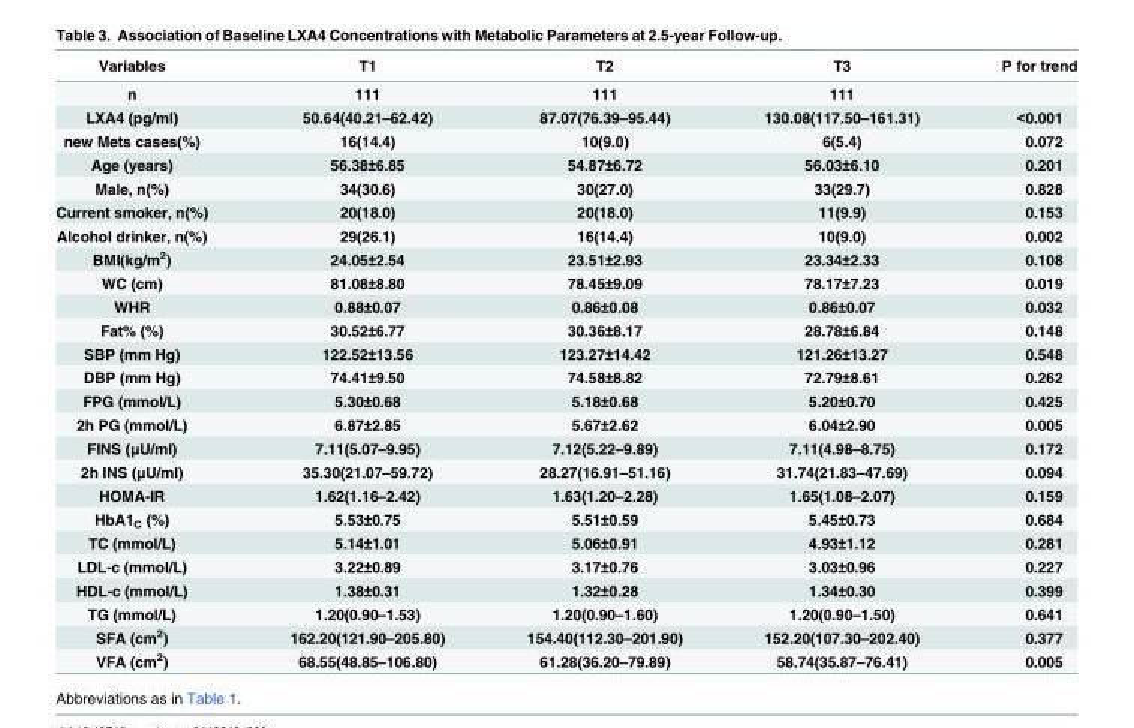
<table><thead><tr><td>Variables</td><td>T1</td><td>T2</td><td>T3</td><td>P for trend</td></tr></thead><tbody><tr><td>n</td><td>111</td><td>111</td><td>111</td><td></td></tr><tr><td>LXA4 (pg/ml)</td><td>50.64(40.21–62.42)</td><td>87.07(76.39–95.44)</td><td>130.08(117.50–161.31)</td><td>&lt;0.001</td></tr><tr><td>new Mets cases(%)</td><td>16(14.4)</td><td>10(9.0)</td><td>6(5.4)</td><td>0.072</td></tr><tr><td>Age (years)</td><td>56.38±6.85</td><td>54.87±6.72</td><td>56.03±6.10</td><td>0.201</td></tr><tr><td>Male, n(%)</td><td>34(30.6)</td><td>30(27.0)</td><td>33(29.7)</td><td>0.828</td></tr><tr><td>Current smoker, n(%)</td><td>20(18.0)</td><td>20(18.0)</td><td>11(9.9)</td><td>0.153</td></tr><tr><td>Alcohol drinker, n(%)</td><td>29(26.1)</td><td>16(14.4)</td><td>10(9.0)</td><td>0.002</td></tr><tr><td>BMI(kg/m<sup>2</sup>)</td><td>24.05±2.54</td><td>23.51±2.93</td><td>23.34±2.33</td><td>0.108</td></tr><tr><td>WC (cm)</td><td>81.08±8.80</td><td>78.45±9.09</td><td>78.17±7.23</td><td>0.019</td></tr><tr><td>WHR</td><td>0.88±0.07</td><td>0.86±0.08</td><td>0.86±0.07</td><td>0.032</td></tr><tr><td>Fat% (%)</td><td>30.52±6.77</td><td>30.36±8.17</td><td>28.78±6.84</td><td>0.148</td></tr><tr><td>SBP (mm Hg)</td><td>122.52±13.56</td><td>123.27±14.42</td><td>121.26±13.27</td><td>0.548</td></tr><tr><td>DBP (mm Hg)</td><td>74.41±9.50</td><td>74.58±8.82</td><td>72.79±8.61</td><td>0.262</td></tr><tr><td>FPG (mmol/L)</td><td>5.30±0.68</td><td>5.18±0.68</td><td>5.20±0.70</td><td>0.425</td></tr><tr><td>2h PG (mmol/L)</td><td>6.87±2.85</td><td>5.67±2.62</td><td>6.04±2.90</td><td>0.005</td></tr><tr><td>FINS (μU/ml)</td><td>7.11(5.07–9.95)</td><td>7.12(5.22–9.89)</td><td>7.11(4.98–8.75)</td><td>0.172</td></tr><tr><td>2h INS (μU/ml)</td><td>35.30(21.07–59.72)</td><td>28.27(16.91–51.16)</td><td>31.74(21.83–47.69)</td><td>0.094</td></tr><tr><td>HOMA-IR</td><td>1.62(1.16–2.42)</td><td>1.63(1.20–2.28)</td><td>1.65(1.08–2.07)</td><td>0.159</td></tr><tr><td>HbA1<sub>C</sub> (%)</td><td>5.53±0.75</td><td>5.51±0.59</td><td>5.45±0.73</td><td>0.684</td></tr><tr><td>TC (mmol/L)</td><td>5.14±1.01</td><td>5.06±0.91</td><td>4.93±1.12</td><td>0.281</td></tr><tr><td>LDL-c (mmol/L)</td><td>3.22±0.89</td><td>3.17±0.76</td><td>3.03±0.96</td><td>0.227</td></tr><tr><td>HDL-c (mmol/L)</td><td>1.38±0.31</td><td>1.32±0.28</td><td>1.34±0.30</td><td>0.399</td></tr><tr><td>TG (mmol/L)</td><td>1.20(0.90–1.53)</td><td>1.20(0.90–1.60)</td><td>1.20(0.90–1.50)</td><td>0.641</td></tr><tr><td>SFA (cm<sup>2</sup>)</td><td>162.20(121.90–205.80)</td><td>154.40(112.30–201.90)</td><td>152.20(107.30–202.40)</td><td>0.377</td></tr><tr><td>VFA (cm<sup>2</sup>)</td><td>68.55(48.85–106.80)</td><td>61.28(36.20–79.89)</td><td>58.74(35.87–76.41)</td><td>0.005</td></tr></tbody></table>